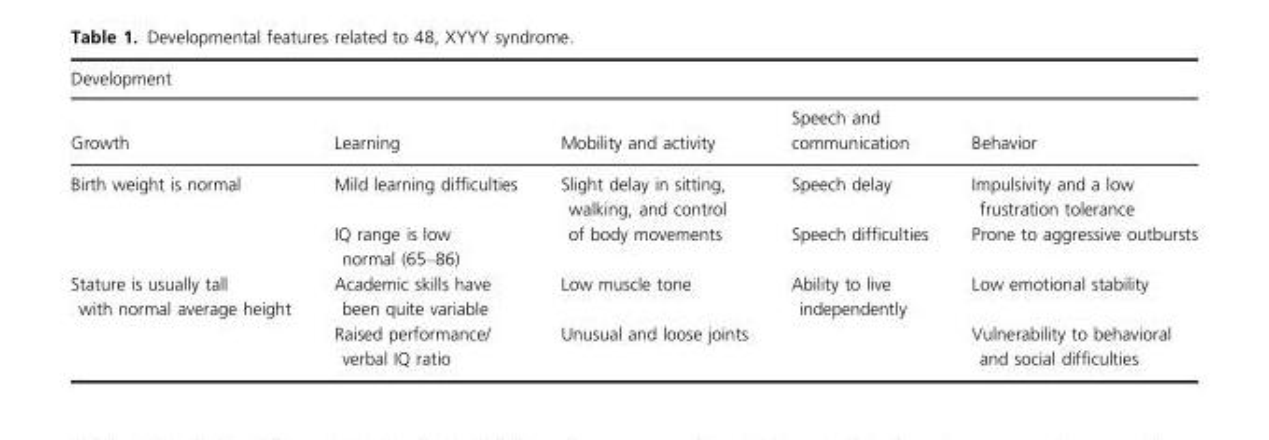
<table><thead><tr><td colspan="5">Development</td></tr><tr><td>Growth</td><td>Learning</td><td>Mobility and activity</td><td>Speech and communication</td><td>Behavior</td></tr></thead><tbody><tr><td rowspan="2">Birth weight is normal</td><td>Mild learning difficulties</td><td rowspan="2">Slight delay in sitting, walking, and control of body movements</td><td>Speech delay</td><td>Impulsivity and a low frustration tolerance</td></tr><tr><td>IQ range is low normal (65–86)</td><td>Speech difficulties</td><td>Prone to aggressive outbursts</td></tr><tr><td rowspan="2">Stature is usually tall with normal average height</td><td>Academic skills have been quite variable</td><td>Low muscle tone</td><td rowspan="2">Ability to live independently</td><td>Low emotional stability</td></tr><tr><td>Raised performance/ verbal IQ ratio</td><td>Unusual and loose joints</td><td>Vulnerability to behavioral and social difficulties</td></tr></tbody></table>